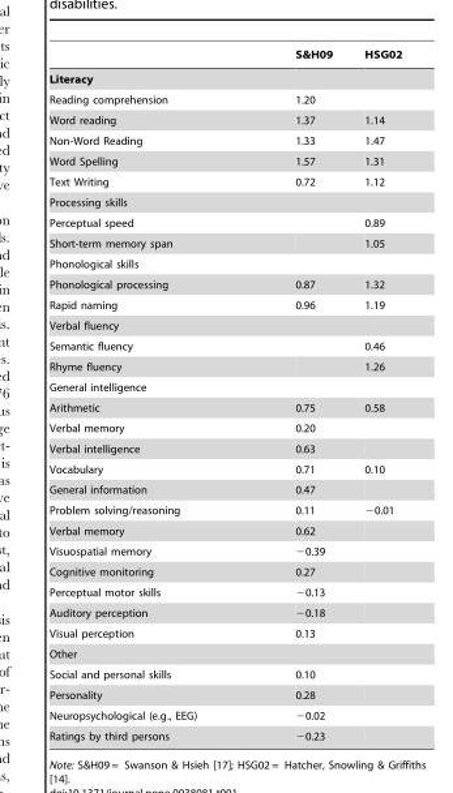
<table><thead><tr><td></td><td>S&amp;H09</td><td>HSG02</td></tr></thead><tbody><tr><td colspan="3">Literacy</td></tr><tr><td>Reading comprehension</td><td>1.20</td><td></td></tr><tr><td>Word reading</td><td>1.37</td><td>1.14</td></tr><tr><td>Non-Word Reading</td><td>1.33</td><td>1.47</td></tr><tr><td>Word Spelling</td><td>1.57</td><td>1.31</td></tr><tr><td>Text Writing</td><td>0.72</td><td>1.12</td></tr><tr><td colspan="3">Processing skills</td></tr><tr><td>Perceptual speed</td><td></td><td>0.89</td></tr><tr><td>Short-term memory span</td><td></td><td>1.05</td></tr><tr><td colspan="3">Phonological skills</td></tr><tr><td>Phonological processing</td><td>0.87</td><td>1.32</td></tr><tr><td>Rapid naming</td><td>0.96</td><td>1.19</td></tr><tr><td colspan="3">Verbal fluency</td></tr><tr><td>Semantic fluency</td><td></td><td>0.46</td></tr><tr><td>Rhyme fluency</td><td></td><td>1.26</td></tr><tr><td colspan="3">General intelligence</td></tr><tr><td>Arithmetic</td><td>0.75</td><td>0.58</td></tr><tr><td>Verbal memory</td><td>0.20</td><td></td></tr><tr><td>Verbal intelligence</td><td>0.63</td><td></td></tr><tr><td>Vocabulary</td><td>0.71</td><td>0.10</td></tr><tr><td>General information</td><td>0.47</td><td></td></tr><tr><td>Problem solving/reasoning</td><td>0.11</td><td>−0.01</td></tr><tr><td>Verbal memory</td><td>0.62</td><td></td></tr><tr><td>Visuospatial memory</td><td>−0.39</td><td></td></tr><tr><td>Cognitive monitoring</td><td>0.27</td><td></td></tr><tr><td>Perceptual motor skills</td><td>−0.13</td><td></td></tr><tr><td>Auditory perception</td><td>−0.18</td><td></td></tr><tr><td>Visual perception</td><td>0.13</td><td></td></tr><tr><td colspan="3">Other</td></tr><tr><td>Social and personal skills</td><td>0.10</td><td></td></tr><tr><td>Personality</td><td>0.28</td><td></td></tr><tr><td>Neuropsychological (e.g., EEG)</td><td>−0.02</td><td></td></tr><tr><td>Ratings by third persons</td><td>−0.23</td><td></td></tr></tbody></table>